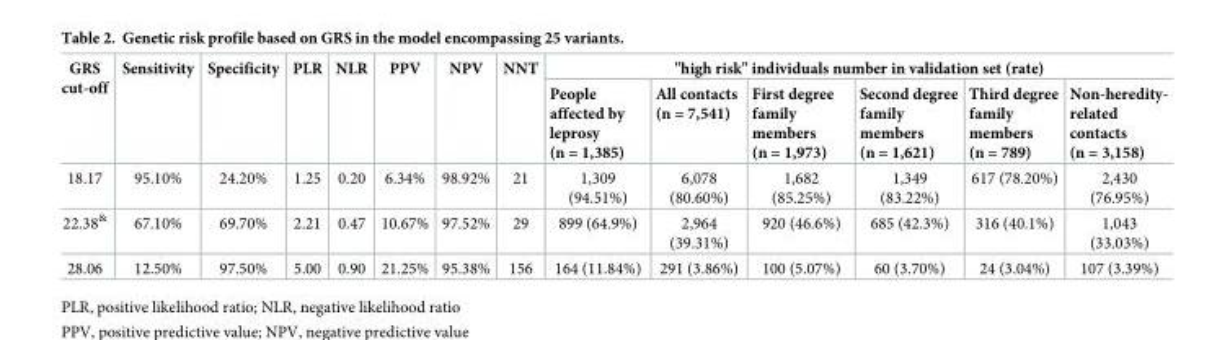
<table><thead><tr><td rowspan="2">GRS cut-off</td><td rowspan="2">Sensitivity</td><td rowspan="2">Specificity</td><td rowspan="2">PLR</td><td rowspan="2">NLR</td><td rowspan="2">PPV</td><td rowspan="2">NPV</td><td rowspan="2">NNT</td><td colspan="6">&quot;high risk&quot; individuals number in validation set (rate)</td></tr><tr><td>People affected by leprosy (n = 1,385)</td><td>All contacts (n = 7,541)</td><td>First degree family members (n = 1,973)</td><td>Second degree family members (n = 1,621)</td><td>Third degree family members (n = 789)</td><td>Non-heredity- related contacts (n = 3,158)</td></tr></thead><tbody><tr><td>18.17</td><td>95.10%</td><td>24.20%</td><td>1.25</td><td>0.20</td><td>6.34%</td><td>98.92%</td><td>21</td><td>1,309 (94.51%)</td><td>6,078 (80.60%)</td><td>1,682 (85.25%)</td><td>1,349 (83.22%)</td><td>617 (78.20%)</td><td>2,430 (76.95%)</td></tr><tr><td>22.38<sup>&amp;</sup></td><td>67.10%</td><td>69.70%</td><td>2.21</td><td>0.47</td><td>10.67%</td><td>97.52%</td><td>29</td><td>899 (64.9%)</td><td>2,964 (39.31%)</td><td>920 (46.6%)</td><td>685 (42.3%)</td><td>316 (40.1%)</td><td>1,043 (33.03%)</td></tr><tr><td>28.06</td><td>12.50%</td><td>97.50%</td><td>5.00</td><td>0.90</td><td>21.25%</td><td>95.38%</td><td>156</td><td>164 (11.84%)</td><td>291 (3.86%)</td><td>100 (5.07%)</td><td>60 (3.70%)</td><td>24 (3.04%)</td><td>107 (3.39%)</td></tr></tbody></table>